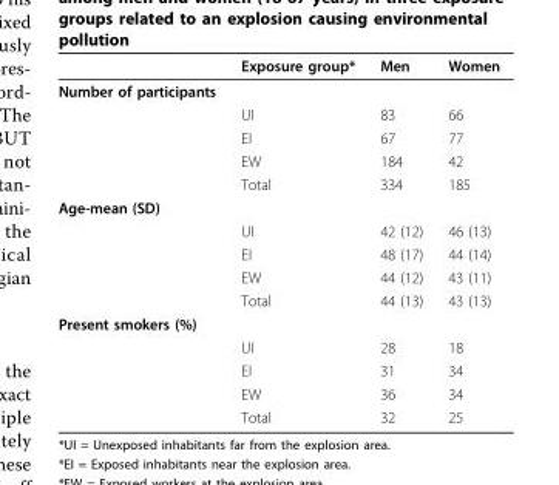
<table><thead><tr><td></td><td>Exposure group*</td><td>Men</td><td>Women</td></tr></thead><tbody><tr><td colspan="4">Number of participants</td></tr><tr><td></td><td>UI</td><td>83</td><td>66</td></tr><tr><td></td><td>EI</td><td>67</td><td>77</td></tr><tr><td></td><td>EW</td><td>184</td><td>42</td></tr><tr><td></td><td>Total</td><td>334</td><td>185</td></tr><tr><td colspan="4">Age-mean (SD)</td></tr><tr><td></td><td>UI</td><td>42 (12)</td><td>46 (13)</td></tr><tr><td></td><td>EI</td><td>48 (17)</td><td>44 (14)</td></tr><tr><td></td><td>EW</td><td>44 (12)</td><td>43 (11)</td></tr><tr><td></td><td>Total</td><td>44 (13)</td><td>43 (13)</td></tr><tr><td colspan="4">Present smokers (%)</td></tr><tr><td></td><td>UI</td><td>28</td><td>18</td></tr><tr><td></td><td>EI</td><td>31</td><td>34</td></tr><tr><td></td><td>EW</td><td>36</td><td>34</td></tr><tr><td></td><td>Total</td><td>32</td><td>25</td></tr></tbody></table>